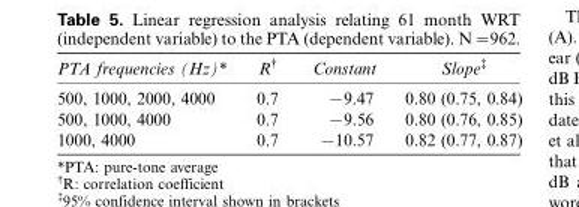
<table><thead><tr><td>PTA frequencies (Hz)*</td><td>R†</td><td>Constant</td><td>Slope‡</td></tr></thead><tbody><tr><td>500, 1000, 2000, 4000</td><td>0.7</td><td>−9.47</td><td>0.80 (0.75, 0.84)</td></tr><tr><td>500, 1000, 4000</td><td>0.7</td><td>−9.56</td><td>0.80 (0.76, 0.85)</td></tr><tr><td>1000, 4000</td><td>0.7</td><td>−10.57</td><td>0.82 (0.77, 0.87)</td></tr></tbody></table>